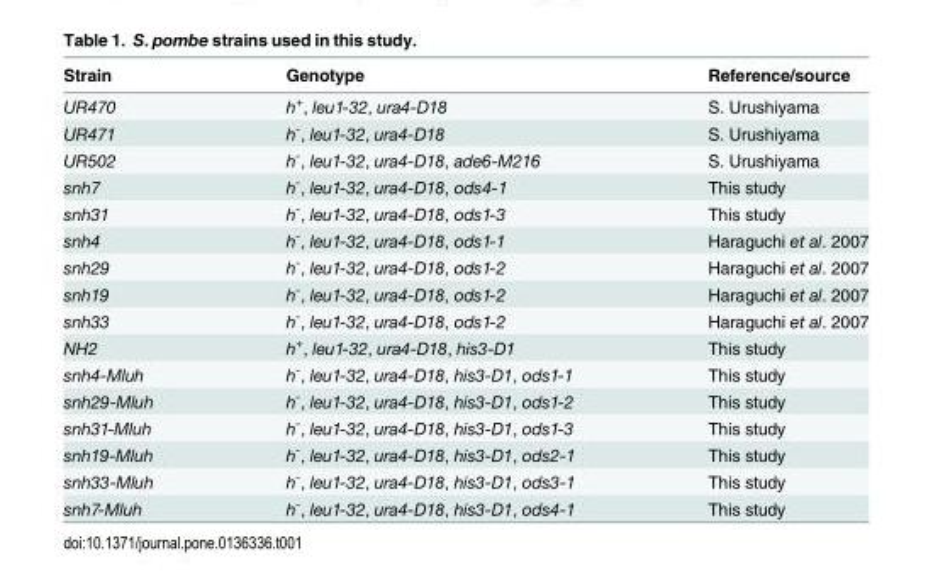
<table><thead><tr><td>Strain</td><td>Genotype</td><td>Reference/source</td></tr></thead><tbody><tr><td>UR470</td><td>h<sup>+</sup>, leu1-32, ura4-D18</td><td>S. Urushiyama</td></tr><tr><td>UR471</td><td>h<sup>-</sup>, leu1-32, ura4-D18</td><td>S. Urushiyama</td></tr><tr><td>UR502</td><td>h<sup>-</sup>, leu1-32, ura4-D18, ade6-M216</td><td>S. Urushiyama</td></tr><tr><td>snh7</td><td>h<sup>-</sup>, leu1-32, ura4-D18, ods4-1</td><td>This study</td></tr><tr><td>snh31</td><td>h<sup>-</sup>, leu1-32, ura4-D18, ods1-3</td><td>This study</td></tr><tr><td>snh4</td><td>h<sup>-</sup>, leu1-32, ura4-D18, ods1-1</td><td>Haraguchi et al. 2007</td></tr><tr><td>snh29</td><td>h<sup>-</sup>, leu1-32, ura4-D18, ods1-2</td><td>Haraguchi et al. 2007</td></tr><tr><td>snh19</td><td>h<sup>-</sup>, leu1-32, ura4-D18, ods1-2</td><td>Haraguchi et al. 2007</td></tr><tr><td>snh33</td><td>h<sup>-</sup>, leu1-32, ura4-D18, ods1-2</td><td>Haraguchi et al. 2007</td></tr><tr><td>NH2</td><td>h<sup>+</sup>, leu1-32, ura4-D18, his3-D1</td><td>This study</td></tr><tr><td>snh4-Mluh</td><td>h<sup>-</sup>, leu1-32, ura4-D18, his3-D1, ods1-1</td><td>This study</td></tr><tr><td>snh29-Mluh</td><td>h<sup>-</sup>, leu1-32, ura4-D18, his3-D1, ods1-2</td><td>This study</td></tr><tr><td>snh31-Mluh</td><td>h<sup>-</sup>, leu1-32, ura4-D18, his3-D1, ods1-3</td><td>This study</td></tr><tr><td>snh19-Mluh</td><td>h<sup>-</sup>, leu1-32, ura4-D18, his3-D1, ods2-1</td><td>This study</td></tr><tr><td>snh33-Mluh</td><td>h<sup>-</sup>, leu1-32, ura4-D18, his3-D1, ods3-1</td><td>This study</td></tr><tr><td>snh7-Mluh</td><td>h<sup>-</sup>, leu1-32, ura4-D18, his3-D1, ods4-1</td><td>This study</td></tr></tbody></table>